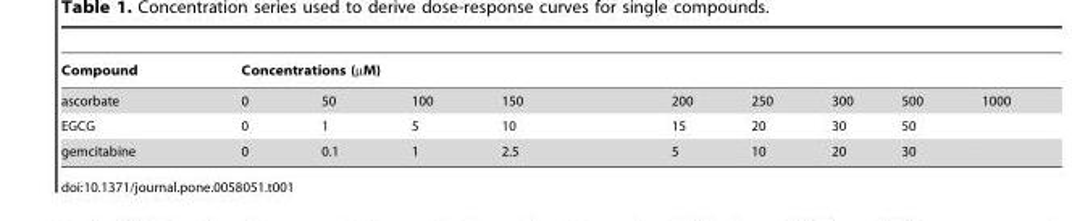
<table><thead><tr><td rowspan="2">Compound ascorbate</td><td colspan="9">Concentrations (µM)</td></tr><tr><td>0</td><td>50</td><td>100</td><td>150</td><td>200</td><td>250</td><td>300</td><td>500</td><td>1000</td></tr></thead><tbody><tr><td>EGCG</td><td>0</td><td>1</td><td>5</td><td>10</td><td>15</td><td>20</td><td>30</td><td>50</td><td></td></tr><tr><td>gemcitabine</td><td>0</td><td>0.1</td><td>1</td><td>2.5</td><td>5</td><td>10</td><td>20</td><td>30</td><td></td></tr></tbody></table>